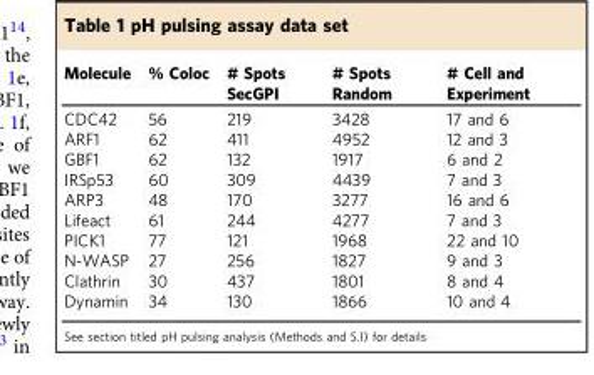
<table><thead><tr><td>Molecule</td><td>% Coloc</td><td># Spots SecGPI</td><td># Spots Random</td><td># Cell and Experiment</td></tr></thead><tbody><tr><td>CDC42</td><td>56</td><td>219</td><td>3428</td><td>17 and 6</td></tr><tr><td>ARF1</td><td>62</td><td>411</td><td>4952</td><td>12 and 3</td></tr><tr><td>GBF1</td><td>62</td><td>132</td><td>1917</td><td>6 and 2</td></tr><tr><td>IRSp53</td><td>60</td><td>309</td><td>4439</td><td>7 and 3</td></tr><tr><td>ARP3</td><td>48</td><td>170</td><td>3277</td><td>16 and 6</td></tr><tr><td>Lifeact</td><td>61</td><td>244</td><td>4277</td><td>7 and 3</td></tr><tr><td>PICK1</td><td>77</td><td>121</td><td>1968</td><td>22 and 10</td></tr><tr><td>N-WASP</td><td>27</td><td>256</td><td>1827</td><td>9 and 3</td></tr><tr><td>Clathrin</td><td>30</td><td>437</td><td>1801</td><td>8 and 4</td></tr><tr><td>Dynamin</td><td>34</td><td>130</td><td>1866</td><td>10 and 4</td></tr></tbody></table>